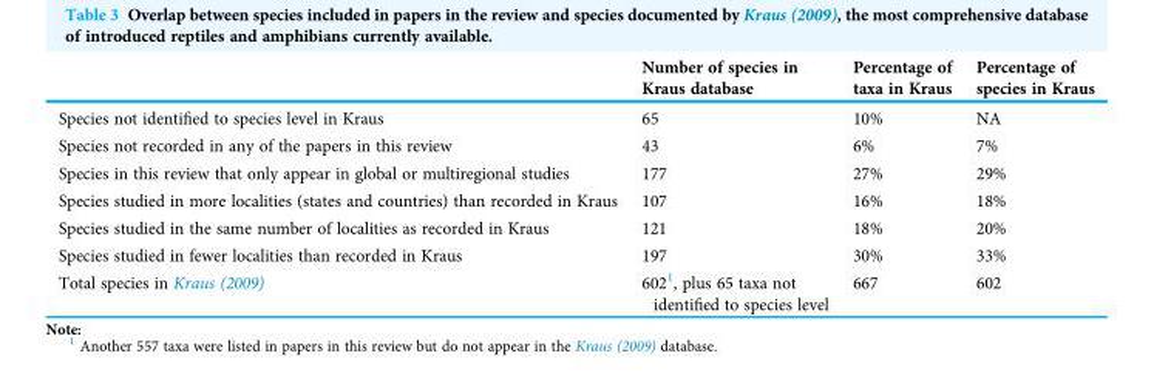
<table><thead><tr><td></td><td>Number of species in Kraus database</td><td>Percentage of taxa in Kraus</td><td>Percentage of species in Kraus</td></tr></thead><tbody><tr><td>Species not identified to species level in Kraus</td><td>65</td><td>10%</td><td>NA</td></tr><tr><td>Species not recorded in any of the papers in this review</td><td>43</td><td>6%</td><td>7%</td></tr><tr><td>Species in this review that only appear in global or multiregional studies</td><td>177</td><td>27%</td><td>29%</td></tr><tr><td>Species studied in more localities (states and countries) than recorded in Kraus</td><td>107</td><td>16%</td><td>18%</td></tr><tr><td>Species studied in the same number of localities as recorded in Kraus</td><td>121</td><td>18%</td><td>20%</td></tr><tr><td>Species studied in fewer localities than recorded in Kraus</td><td>197</td><td>30%</td><td>33%</td></tr><tr><td>Total species in Kraus (2009)</td><td>602<sup>1</sup>, plus 65 taxa not identified to species level</td><td>667</td><td>602</td></tr></tbody></table>